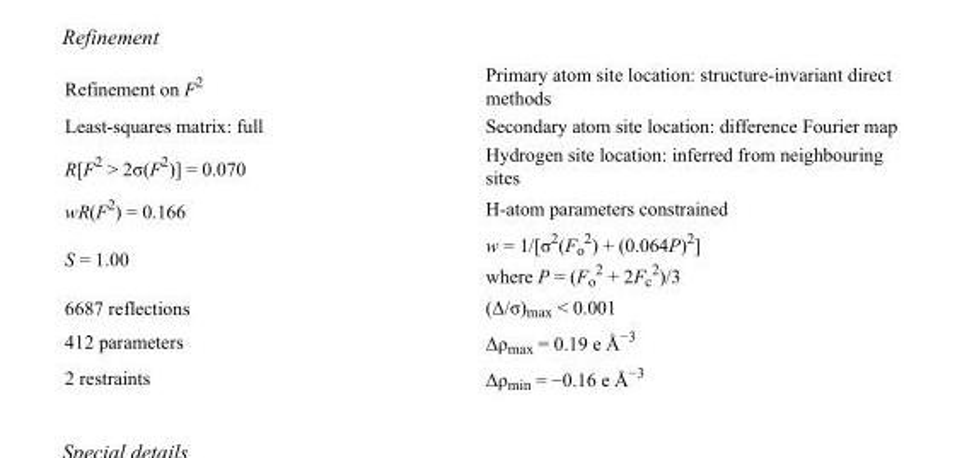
<table><tbody><tr><td>Refinement on F<sup>2</sup></td><td>Primary atom site location: structure-invariant direct methods</td></tr><tr><td>Least-squares matrix: full</td><td>Secondary atom site location: difference Fourier map</td></tr><tr><td>R[F<sup>2</sup> &gt; 2σ(F<sup>2</sup>)] = 0.070</td><td>Hydrogen site location: inferred from neighbouring sites</td></tr><tr><td>wR(F<sup>2</sup>) = 0.166</td><td>H-atom parameters constrained</td></tr><tr><td>S = 1.00</td><td>w = 1/[σ<sup>2</sup>(F<sub>o</sub> <sup>2</sup>) + (0.064P)<sup>2</sup>] where P = (F<sub>o</sub> <sup>2</sup> + 2F<sub>c</sub> <sup>2</sup>)/3</td></tr><tr><td>6687 reflections</td><td>(Δ/σ)<sub>max</sub> &lt; 0.001</td></tr><tr><td>412 parameters</td><td>Δρ<sub>max</sub> = 0.19 e Å<sup>−3</sup></td></tr><tr><td>2 restraints</td><td>Δρmin = −0.16 e Å−3</td></tr></tbody></table>